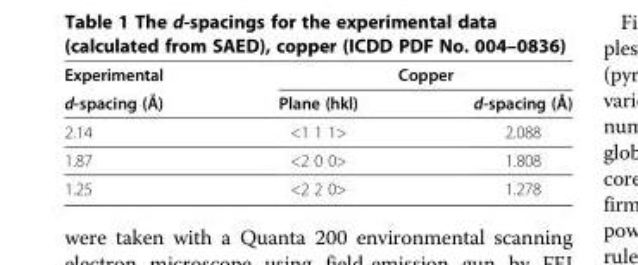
<table><thead><tr><td rowspan="2">Experimental d-spacing (Å)</td><td colspan="2">Copper</td></tr><tr><td>Plane (hkl)</td><td>d-spacing (Å)</td></tr></thead><tbody><tr><td>2.14</td><td>&lt;1 1 1&gt;</td><td>2.088</td></tr><tr><td>1.87</td><td>&lt;2 0 0&gt;</td><td>1.808</td></tr><tr><td>1.25</td><td>&lt;2 2 0&gt;</td><td>1.278</td></tr></tbody></table>